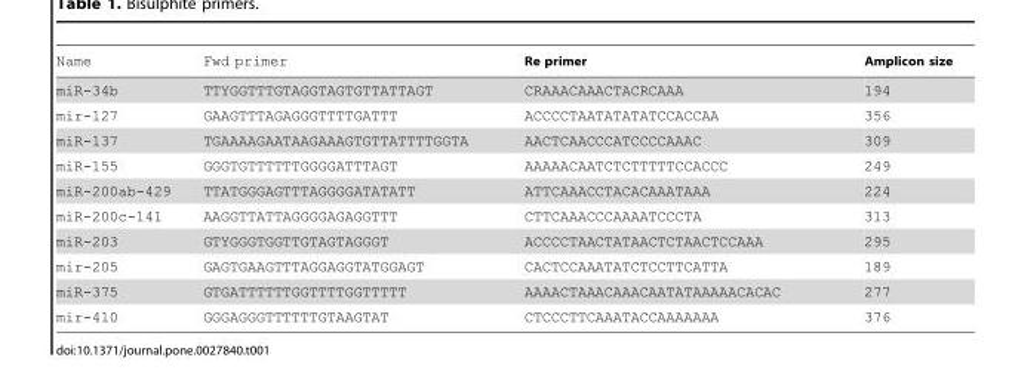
<table><thead><tr><td>Name</td><td>Fwd primer</td><td>Re primer</td><td>Amplicon size</td></tr></thead><tbody><tr><td>miR-34b</td><td>TTYGGTTTGTAGGTAGTGTTATTAGT</td><td>CRAAACAAACTACRCAAA</td><td>194</td></tr><tr><td>mir-127</td><td>GAAGTTTAGAGGGTTTTGATTT</td><td>ACCCCTAATATATATCCACCAA</td><td>356</td></tr><tr><td>miR-137</td><td>TGAAAAGAATAAGAAAGTGTTATTTTGGTA</td><td>AACTCAACCCATCCCCAAAC</td><td>309</td></tr><tr><td>miR-155</td><td>GGGTGTTTTTTGGGGATTTAGT</td><td>AAAAACAATCTCTTTTTCCACCC</td><td>249</td></tr><tr><td>miR-200ab-429</td><td>TTATGGGAGTTTAGGGGATATATT</td><td>ATTCAAACCTACACAAATAAA</td><td>224</td></tr><tr><td>miR-200c-141</td><td>AAGGTTATTAGGGGAGAGGTTT</td><td>CTTCAAACCCAAAATCCCTA</td><td>313</td></tr><tr><td>miR-203</td><td>GTYGGGTGGTTGTAGTAGGGT</td><td>ACCCCTAACTATAACTCTAACTCCAAA</td><td>295</td></tr><tr><td>mir-205</td><td>GAGTGAAGTTTAGGAGGTATGGAGT</td><td>CACTCCAAATATCTCCTTCATTA</td><td>189</td></tr><tr><td>miR-375</td><td>GTGATTTTTTGGTTTTGGTTTTT</td><td>AAAACTAAACAAACAATATAAAAACACAC</td><td>277</td></tr><tr><td>mir-410</td><td>GGGAGGGTTTTTTGTAAGTAT</td><td>CTCCCTTCAAATACCAAAAAAA</td><td>376</td></tr></tbody></table>